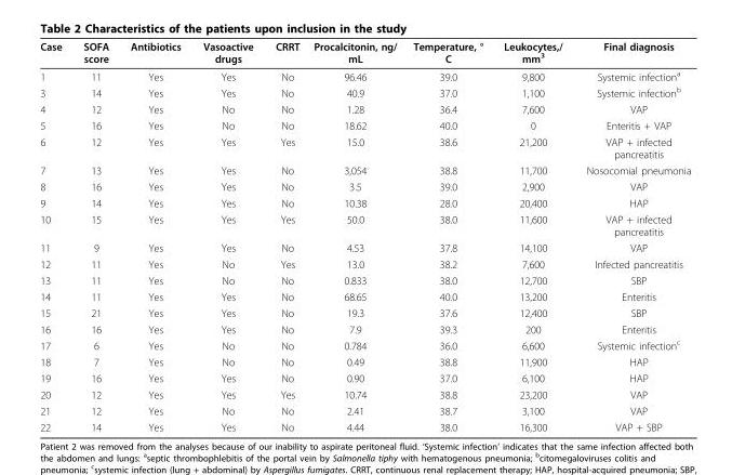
<table><thead><tr><td>Case</td><td>SOFA score</td><td>Antibiotics</td><td>Vasoactive drugs</td><td>CRRT</td><td>Procalcitonin, ng/ mL</td><td>Temperature, ° C</td><td>Leukocytes,/ mm<sup>3</sup></td><td>Final diagnosis</td></tr></thead><tbody><tr><td>1</td><td>11</td><td>Yes</td><td>Yes</td><td>No</td><td>96.46</td><td>39.0</td><td>9,800</td><td>Systemic infection<sup>a</sup></td></tr><tr><td>3</td><td>14</td><td>Yes</td><td>Yes</td><td>No</td><td>40.9</td><td>37.0</td><td>1,100</td><td>Systemic infection<sup>b</sup></td></tr><tr><td>4</td><td>12</td><td>Yes</td><td>No</td><td>No</td><td>1.28</td><td>36.4</td><td>7,600</td><td>VAP</td></tr><tr><td>5</td><td>16</td><td>Yes</td><td>No</td><td>No</td><td>18.62</td><td>40.0</td><td>0</td><td>Enteritis + VAP</td></tr><tr><td>6</td><td>12</td><td>Yes</td><td>Yes</td><td>Yes</td><td>15.0</td><td>38.6</td><td>21,200</td><td>VAP + infected pancreatitis</td></tr><tr><td>7</td><td>13</td><td>Yes</td><td>Yes</td><td>No</td><td>3,054</td><td>38.8</td><td>11,700</td><td>Nosocomial pneumonia</td></tr><tr><td>8</td><td>16</td><td>Yes</td><td>Yes</td><td>No</td><td>3.5</td><td>39.0</td><td>2,900</td><td>VAP</td></tr><tr><td>9</td><td>14</td><td>Yes</td><td>Yes</td><td>No</td><td>10.38</td><td>28.0</td><td>20,400</td><td>HAP</td></tr><tr><td>10</td><td>15</td><td>Yes</td><td>Yes</td><td>Yes</td><td>50.0</td><td>38.0</td><td>11,600</td><td>VAP + infected pancreatitis</td></tr><tr><td>11</td><td>9</td><td>Yes</td><td>Yes</td><td>No</td><td>4.53</td><td>37.8</td><td>14,100</td><td>VAP</td></tr><tr><td>12</td><td>11</td><td>Yes</td><td>No</td><td>Yes</td><td>13.0</td><td>38.2</td><td>7,600</td><td>Infected pancreatitis</td></tr><tr><td>13</td><td>11</td><td>Yes</td><td>No</td><td>No</td><td>0.833</td><td>38.0</td><td>12,700</td><td>SBP</td></tr><tr><td>14</td><td>11</td><td>Yes</td><td>Yes</td><td>No</td><td>68.65</td><td>40.0</td><td>13,200</td><td>Enteritis</td></tr><tr><td>15</td><td>21</td><td>Yes</td><td>Yes</td><td>No</td><td>19.3</td><td>37.6</td><td>12,400</td><td>SBP</td></tr><tr><td>16</td><td>16</td><td>Yes</td><td>Yes</td><td>No</td><td>7.9</td><td>39.3</td><td>200</td><td>Enteritis</td></tr><tr><td>17</td><td>6</td><td>Yes</td><td>No</td><td>No</td><td>0.784</td><td>36.0</td><td>6,600</td><td>Systemic infection<sup>c</sup></td></tr><tr><td>18</td><td>7</td><td>Yes</td><td>No</td><td>No</td><td>0.49</td><td>38.8</td><td>11,900</td><td>HAP</td></tr><tr><td>19</td><td>16</td><td>Yes</td><td>Yes</td><td>No</td><td>0.90</td><td>37.0</td><td>6,100</td><td>HAP</td></tr><tr><td>20</td><td>12</td><td>Yes</td><td>Yes</td><td>Yes</td><td>10.74</td><td>38.8</td><td>23,200</td><td>VAP</td></tr><tr><td>21</td><td>12</td><td>Yes</td><td>No</td><td>No</td><td>2.41</td><td>38.7</td><td>3,100</td><td>VAP</td></tr><tr><td>22</td><td>14</td><td>Yes</td><td>Yes</td><td>No</td><td>4.44</td><td>38.0</td><td>16,300</td><td>VAP + SBP</td></tr></tbody></table>